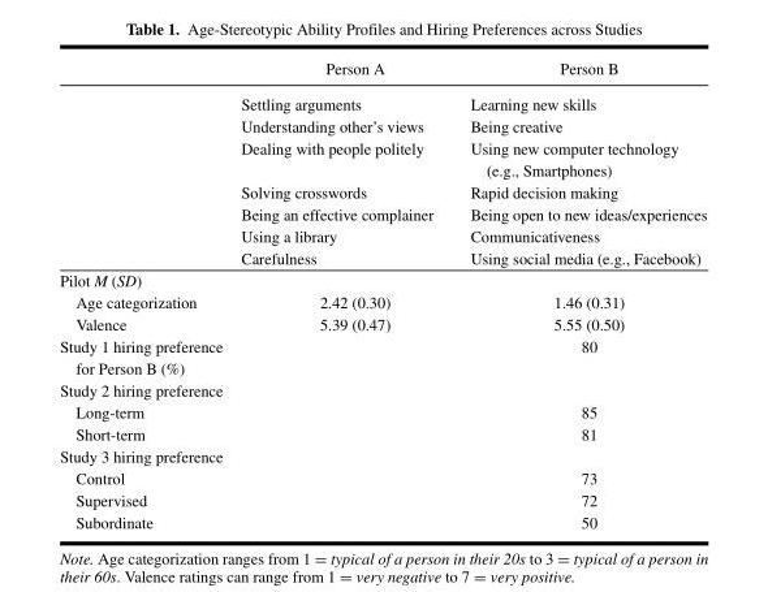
<table><thead><tr><td></td><td>Person A</td><td>Person B</td></tr></thead><tbody><tr><td></td><td>Settling arguments</td><td>Learning new skills</td></tr><tr><td></td><td>Understanding other’s views</td><td>Being creative</td></tr><tr><td></td><td>Dealing with people politely</td><td>Using new computer technology (e.g., Smartphones)</td></tr><tr><td></td><td>Solving crosswords</td><td>Rapid decision making</td></tr><tr><td></td><td>Being an effective complainer</td><td>Being open to new ideas/experiences</td></tr><tr><td></td><td>Using a library</td><td>Communicativeness</td></tr><tr><td></td><td>Carefulness</td><td>Using social media (e.g., Facebook)</td></tr><tr><td colspan="3">Pilot M (SD)</td></tr><tr><td>Age categorization</td><td>2.42 (0.30)</td><td>1.46 (0.31)</td></tr><tr><td>Valence</td><td>5.39 (0.47)</td><td>5.55 (0.50)</td></tr><tr><td>Study 1 hiring preference for Person B (%)</td><td></td><td>80</td></tr><tr><td colspan="3">Study 2 hiring preference</td></tr><tr><td>Long-term</td><td></td><td>85</td></tr><tr><td>Short-term</td><td></td><td>81</td></tr><tr><td colspan="3">Study 3 hiring preference</td></tr><tr><td>Control</td><td></td><td>73</td></tr><tr><td>Supervised</td><td></td><td>72</td></tr><tr><td>Subordinate</td><td></td><td>50</td></tr></tbody></table>